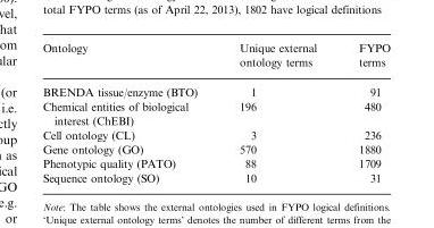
<table><thead><tr><td>Ontology</td><td>Unique external ontology terms</td><td>FYPO terms</td></tr></thead><tbody><tr><td>BRENDA tissue/enzyme (BTO)</td><td>1</td><td>91</td></tr><tr><td>Chemical entities of biological interest (ChEBI)</td><td>196</td><td>480</td></tr><tr><td>Cell ontology (CL)</td><td>3</td><td>236</td></tr><tr><td>Gene ontology (GO)</td><td>570</td><td>1880</td></tr><tr><td>Phenotypic quality (PATO)</td><td>88</td><td>1709</td></tr><tr><td>Sequence ontology (SO)</td><td>10</td><td>31</td></tr></tbody></table>